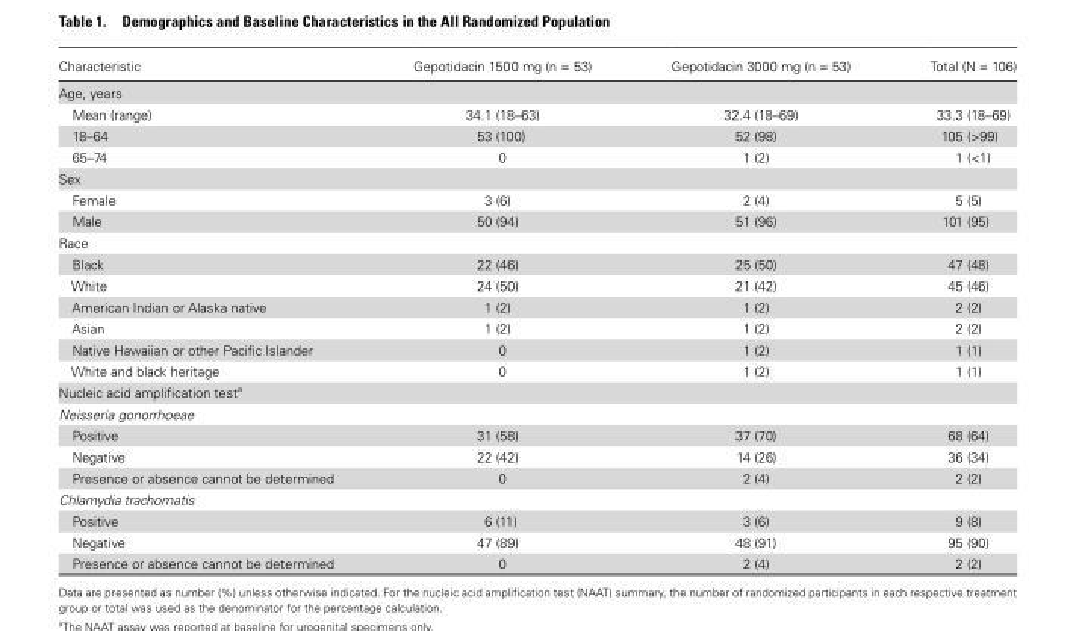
<table><thead><tr><td>Characteristic</td><td>Gepotidacin 1500 mg (n = 53)</td><td>Gepotidacin 3000 mg (n = 53)</td><td>Total (N = 106)</td></tr></thead><tbody><tr><td colspan="4">Age, years</td></tr><tr><td>Mean (range)</td><td>34.1 (18–63)</td><td>32.4 (18–69)</td><td>33.3 (18–69)</td></tr><tr><td>18–64</td><td>53 (100)</td><td>52 (98)</td><td>105 (&gt;99)</td></tr><tr><td>65–74</td><td>0</td><td>1 (2)</td><td>1 (&lt;1)</td></tr><tr><td colspan="4">Sex</td></tr><tr><td>Female</td><td>3 (6)</td><td>2 (4)</td><td>5 (5)</td></tr><tr><td>Male</td><td>50 (94)</td><td>51 (96)</td><td>101 (95)</td></tr><tr><td colspan="4">Race</td></tr><tr><td>Black</td><td>22 (46)</td><td>25 (50)</td><td>47 (48)</td></tr><tr><td>White</td><td>24 (50)</td><td>21 (42)</td><td>45 (46)</td></tr><tr><td>American Indian or Alaska native</td><td>1 (2)</td><td>1 (2)</td><td>2 (2)</td></tr><tr><td>Asian</td><td>1 (2)</td><td>1 (2)</td><td>2 (2)</td></tr><tr><td>Native Hawaiian or other Pacific Islander</td><td>0</td><td>1 (2)</td><td>1 (1)</td></tr><tr><td>White and black heritage</td><td>0</td><td>1 (2)</td><td>1 (1)</td></tr><tr><td colspan="4">Nucleic acid amplification test<sup>a</sup></td></tr><tr><td colspan="4">Neisseria gonorrhoeae</td></tr><tr><td>Positive</td><td>31 (58)</td><td>37 (70)</td><td>68 (64)</td></tr><tr><td>Negative</td><td>22 (42)</td><td>14 (26)</td><td>36 (34)</td></tr><tr><td>Presence or absence cannot be determined</td><td>0</td><td>2 (4)</td><td>2 (2)</td></tr><tr><td colspan="4">Chlamydia trachomatis</td></tr><tr><td>Positive</td><td>6 (11)</td><td>3 (6)</td><td>9 (8)</td></tr><tr><td>Negative</td><td>47 (89)</td><td>48 (91)</td><td>95 (90)</td></tr><tr><td>Presence or absence cannot be determined</td><td>0</td><td>2 (4)</td><td>2 (2)</td></tr></tbody></table>